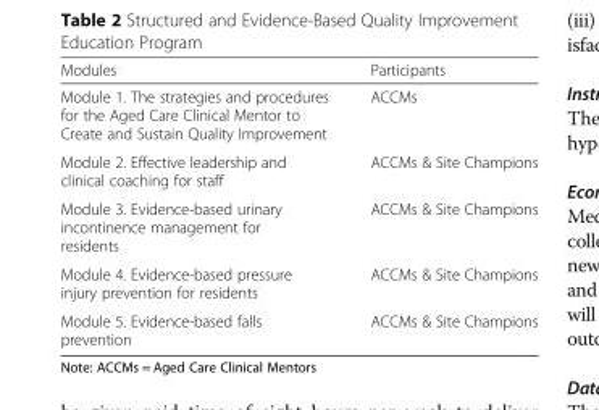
<table><thead><tr><td>Modules</td><td>Participants</td></tr></thead><tbody><tr><td>Module 1. The strategies and procedures for the Aged Care Clinical Mentor to Create and Sustain Quality Improvement</td><td>ACCMs</td></tr><tr><td>Module 2. Effective leadership and clinical coaching for staff</td><td>ACCMs &amp; Site Champions</td></tr><tr><td>Module 3. Evidence-based urinary incontinence management for residents</td><td>ACCMs &amp; Site Champions</td></tr><tr><td>Module 4. Evidence-based pressure injury prevention for residents</td><td>ACCMs &amp; Site Champions</td></tr><tr><td>Module 5. Evidence-based falls prevention</td><td>ACCMs &amp; Site Champions</td></tr></tbody></table>